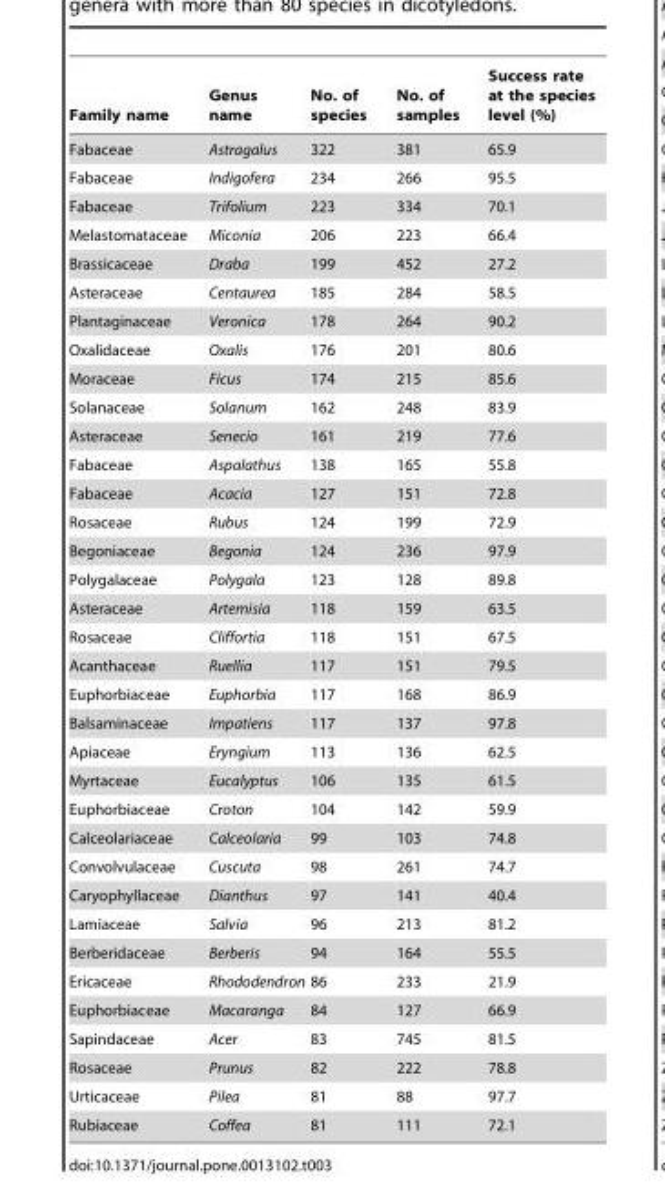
<table><thead><tr><td>Family name</td><td>Genus name</td><td>No. of species</td><td>No. of samples</td><td>Success rate at the species level (%)</td></tr></thead><tbody><tr><td>Fabaceae</td><td>Astragalus</td><td>322</td><td>381</td><td>65.9</td></tr><tr><td>Fabaceae</td><td>Indigofera</td><td>234</td><td>266</td><td>95.5</td></tr><tr><td>Fabaceae</td><td>Trifolium</td><td>223</td><td>334</td><td>70.1</td></tr><tr><td>Melastomataceae</td><td>Miconia</td><td>206</td><td>223</td><td>66.4</td></tr><tr><td>Brassicaceae</td><td>Draba</td><td>199</td><td>452</td><td>27.2</td></tr><tr><td>Asteraceae</td><td>Centaurea</td><td>185</td><td>284</td><td>58.5</td></tr><tr><td>Plantaginaceae</td><td>Veronica</td><td>178</td><td>264</td><td>90.2</td></tr><tr><td>Oxalidaceae</td><td>Oxalis</td><td>176</td><td>201</td><td>80.6</td></tr><tr><td>Moraceae</td><td>Ficus</td><td>174</td><td>215</td><td>85.6</td></tr><tr><td>Solanaceae</td><td>Solanum</td><td>162</td><td>248</td><td>83.9</td></tr><tr><td>Asteraceae</td><td>Senecio</td><td>161</td><td>219</td><td>77.6</td></tr><tr><td>Fabaceae</td><td>Aspalathus</td><td>138</td><td>165</td><td>55.8</td></tr><tr><td>Fabaceae</td><td>Acacia</td><td>127</td><td>151</td><td>72.8</td></tr><tr><td>Rosaceae</td><td>Rubus</td><td>124</td><td>199</td><td>72.9</td></tr><tr><td>Begoniaceae</td><td>Begonia</td><td>124</td><td>236</td><td>97.9</td></tr><tr><td>Polygalaceae</td><td>Polygala</td><td>123</td><td>128</td><td>89.8</td></tr><tr><td>Asteraceae</td><td>Artemisia</td><td>118</td><td>159</td><td>63.5</td></tr><tr><td>Rosaceae</td><td>Cliffortia</td><td>118</td><td>151</td><td>67.5</td></tr><tr><td>Acanthaceae</td><td>Ruellia</td><td>117</td><td>151</td><td>79.5</td></tr><tr><td>Euphorbiaceae</td><td>Euphorbia</td><td>117</td><td>168</td><td>86.9</td></tr><tr><td>Balsaminaceae</td><td>Impatiens</td><td>117</td><td>137</td><td>97.8</td></tr><tr><td>Apiaceae</td><td>Eryngium</td><td>113</td><td>136</td><td>62.5</td></tr><tr><td>Myrtaceae</td><td>Eucalyptus</td><td>106</td><td>135</td><td>61.5</td></tr><tr><td>Euphorbiaceae</td><td>Croton</td><td>104</td><td>142</td><td>59.9</td></tr><tr><td>Calceolariaceae</td><td>Calceolaria</td><td>99</td><td>103</td><td>74.8</td></tr><tr><td>Convolvulaceae</td><td>Cuscuta</td><td>98</td><td>261</td><td>74.7</td></tr><tr><td>Caryophyllaceae</td><td>Dianthus</td><td>97</td><td>141</td><td>40.4</td></tr><tr><td>Lamiaceae</td><td>Salvia</td><td>96</td><td>213</td><td>81.2</td></tr><tr><td>Berberidaceae</td><td>Berberis</td><td>94</td><td>164</td><td>55.5</td></tr><tr><td>Ericaceae</td><td>Rhododendron</td><td>86</td><td>233</td><td>21.9</td></tr><tr><td>Euphorbiaceae</td><td>Macaranga</td><td>84</td><td>127</td><td>66.9</td></tr><tr><td>Sapindaceae</td><td>Acer</td><td>83</td><td>745</td><td>81.5</td></tr><tr><td>Rosaceae</td><td>Prunus</td><td>82</td><td>222</td><td>78.8</td></tr><tr><td>Urticaceae</td><td>Pilea</td><td>81</td><td>88</td><td>97.7</td></tr><tr><td>Rubiaceae</td><td>Coffea</td><td>81</td><td>111</td><td>72.1</td></tr></tbody></table>